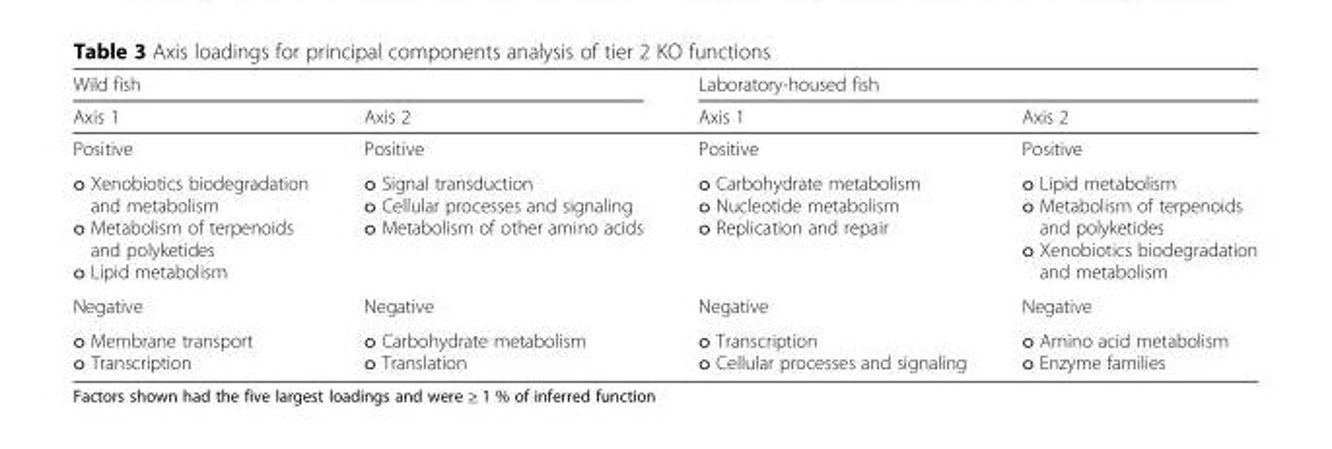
<table><thead><tr><td colspan="2">Wild fish</td><td colspan="2">Laboratory-housed fish</td></tr><tr><td>Axis 1</td><td>Axis 2</td><td>Axis 1</td><td>Axis 2</td></tr></thead><tbody><tr><td>Positive</td><td>Positive</td><td>Positive</td><td>Positive</td></tr><tr><td>o Xenobiotics biodegradation and metabolism o Metabolism of terpenoids and polyketides o Lipid metabolism</td><td>o Signal transduction o Cellular processes and signaling o Metabolism of other amino acids</td><td>o Carbohydrate metabolism o Nucleotide metabolism o Replication and repair</td><td>o Lipid metabolism o Metabolism of terpenoids and polyketides o Xenobiotics biodegradation and metabolism</td></tr><tr><td>Negative</td><td>Negative</td><td>Negative</td><td>Negative</td></tr><tr><td>o Membrane transport o Transcription</td><td>o Carbohydrate metabolism o Translation</td><td>o Transcription o Cellular processes and signaling</td><td>o Amino acid metabolism o Enzyme families</td></tr></tbody></table>